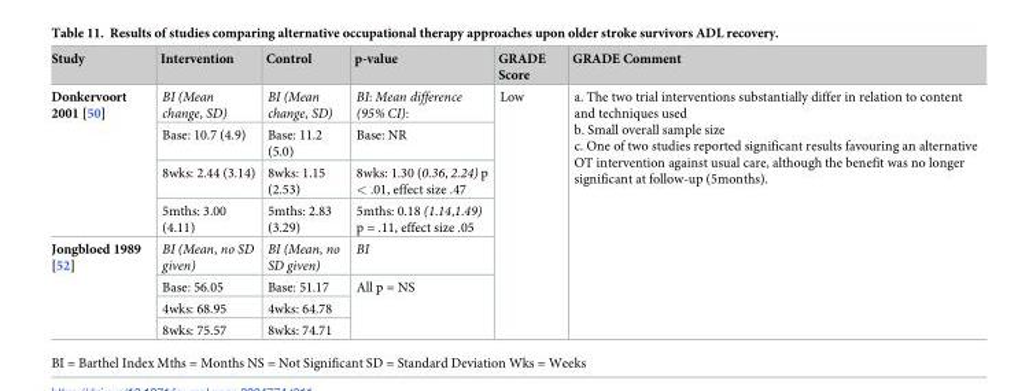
<table><thead><tr><td>Study</td><td>Intervention</td><td>Control</td><td>p-value</td><td>GRADE Score</td><td>GRADE Comment</td></tr></thead><tbody><tr><td rowspan="4">Donkervoort 2001 [50]</td><td>BI (Mean change, SD)</td><td>BI (Mean change, SD)</td><td>BI: Mean difference (95% CI):</td><td rowspan="8">Low</td><td rowspan="8">a. The two trial interventions substantially differ in relation to content and techniques used b. Small overall sample size c. One of two studies reported significant results favouring an alternative OT intervention against usual care, although the benefit was no longer significant at follow-up (5months).</td></tr><tr><td>Base: 10.7 (4.9)</td><td>Base: 11.2 (5.0)</td><td>Base: NR</td></tr><tr><td>8wks: 2.44 (3.14)</td><td>8wks: 1.15 (2.53)</td><td>8wks: 1.30 (0.36, 2.24) p &lt; .01, effect size .47</td></tr><tr><td>5mths: 3.00 (4.11)</td><td>5mths: 2.83 (3.29)</td><td>5mths: 0.18 (1.14,1.49) p = .11, effect size .05</td></tr><tr><td rowspan="4">Jongbloed 1989 [52]</td><td>BI (Mean, no SD given)</td><td>BI (Mean, no SD given)</td><td>BI</td></tr><tr><td>Base: 56.05</td><td>Base: 51.17</td><td rowspan="3">All p = NS</td></tr><tr><td>4wks: 68.95</td><td>4wks: 64.78</td></tr><tr><td>8wks: 75.57</td><td>8wks: 74.71</td></tr></tbody></table>